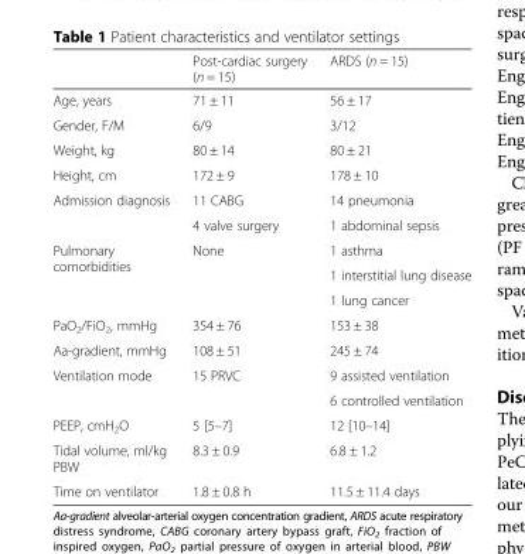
<table><thead><tr><td></td><td>Post-cardiac surgery (n = 15)</td><td>ARDS (n = 15)</td></tr></thead><tbody><tr><td>Age, years</td><td>71 ± 11</td><td>56 ± 17</td></tr><tr><td>Gender, F/M</td><td>6/9</td><td>3/12</td></tr><tr><td>Weight, kg</td><td>80 ± 14</td><td>80 ± 21</td></tr><tr><td>Height, cm</td><td>172 ± 9</td><td>178 ± 10</td></tr><tr><td rowspan="2">Admission diagnosis</td><td>11 CABG</td><td>14 pneumonia</td></tr><tr><td>4 valve surgery</td><td>1 abdominal sepsis</td></tr><tr><td rowspan="3">Pulmonary comorbidities</td><td rowspan="3">None</td><td>1 asthma</td></tr><tr><td>1 interstitial lung disease</td></tr><tr><td>1 lung cancer</td></tr><tr><td>PaO<sub>2</sub>/FiO<sub>2</sub>, mmHg</td><td>354 ± 76</td><td>153 ± 38</td></tr><tr><td>Aa-gradient, mmHg</td><td>108 ± 51</td><td>245 ± 74</td></tr><tr><td rowspan="2">Ventilation mode</td><td rowspan="2">15 PRVC</td><td>9 assisted ventilation</td></tr><tr><td>6 controlled ventilation</td></tr><tr><td>PEEP, cmH<sub>2</sub>O</td><td>5 [5–7]</td><td>12 [10–14]</td></tr><tr><td>Tidal volume, ml/kg PBW</td><td>8.3 ± 0.9</td><td>6.8 ± 1.2</td></tr><tr><td>Time on ventilator</td><td>1.8 ± 0.8 h</td><td>11.5 ± 11.4 days</td></tr></tbody></table>